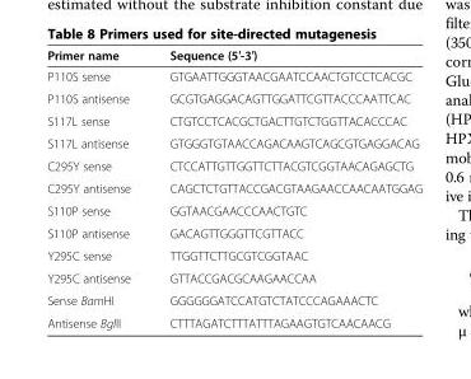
<table><thead><tr><td>Primer name</td><td>Sequence (5′-3′)</td></tr></thead><tbody><tr><td>P110S sense</td><td>GTGAATTGGGTAACGAATCCAACTGTCCTCACGC</td></tr><tr><td>P110S antisense</td><td>GCGTGAGGACAGTTGGATTCGTTACCCAATTCAC</td></tr><tr><td>S117L sense</td><td>CTGTCCTCACGCTGACTTGTCTGGTTACACCCAC</td></tr><tr><td>S117L antisense</td><td>GTGGGTGTAACCAGACAAGTCAGCGTGAGGACAG</td></tr><tr><td>C295Y sense</td><td>CTCCATTGTTGGTTCTTACGTCGGTAACAGAGCTG</td></tr><tr><td>C295Y antisense</td><td>CAGCTCTGTTACCGACGTAAGAACCAACAATGGAG</td></tr><tr><td>S110P sense</td><td>GGTAACGAACCCAACTGTC</td></tr><tr><td>S110P antisense</td><td>GACAGTTGGGTTCGTTACC</td></tr><tr><td>Y295C sense</td><td>TTGGTTCTTGCGTCGGTAAC</td></tr><tr><td>Y295C antisense</td><td>GTTACCGACGCAAGAACCAA</td></tr><tr><td>Sense BamHI</td><td>GGGGGGATCCATGTCTATCCCAGAAACTC</td></tr><tr><td>Antisense BglII</td><td>CTTTAGATCTTTATTTAGAAGTGTCAACAACG</td></tr></tbody></table>